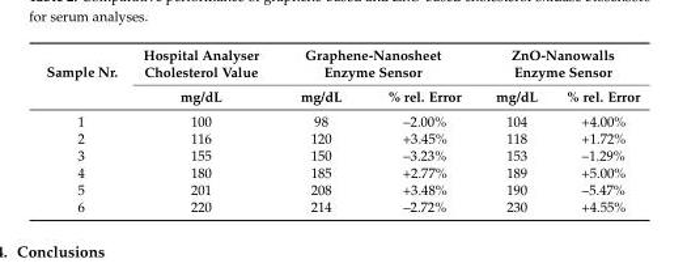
<table><thead><tr><td rowspan="2">Sample Nr.</td><td rowspan="2">Hospital Analyser Cholesterol Value mg/dL</td><td colspan="2">Graphene-Nanosheet Enzyme Sensor</td><td colspan="2">ZnO-Nanowalls Enzyme Sensor</td></tr><tr><td>mg/dL</td><td>% rel. Error</td><td>mg/dL</td><td>% rel. Error</td></tr></thead><tbody><tr><td>1</td><td>100</td><td>98</td><td>–2.00%</td><td>104</td><td>+4.00%</td></tr><tr><td>2</td><td>116</td><td>120</td><td>+3.45%</td><td>118</td><td>+1.72%</td></tr><tr><td>3</td><td>155</td><td>150</td><td>–3.23%</td><td>153</td><td>–1.29%</td></tr><tr><td>4</td><td>180</td><td>185</td><td>+2.77%</td><td>189</td><td>+5.00%</td></tr><tr><td>5</td><td>201</td><td>208</td><td>+3.48%</td><td>190</td><td>–5.47%</td></tr><tr><td>6</td><td>220</td><td>214</td><td>–2.72%</td><td>230</td><td>+4.55%</td></tr></tbody></table>